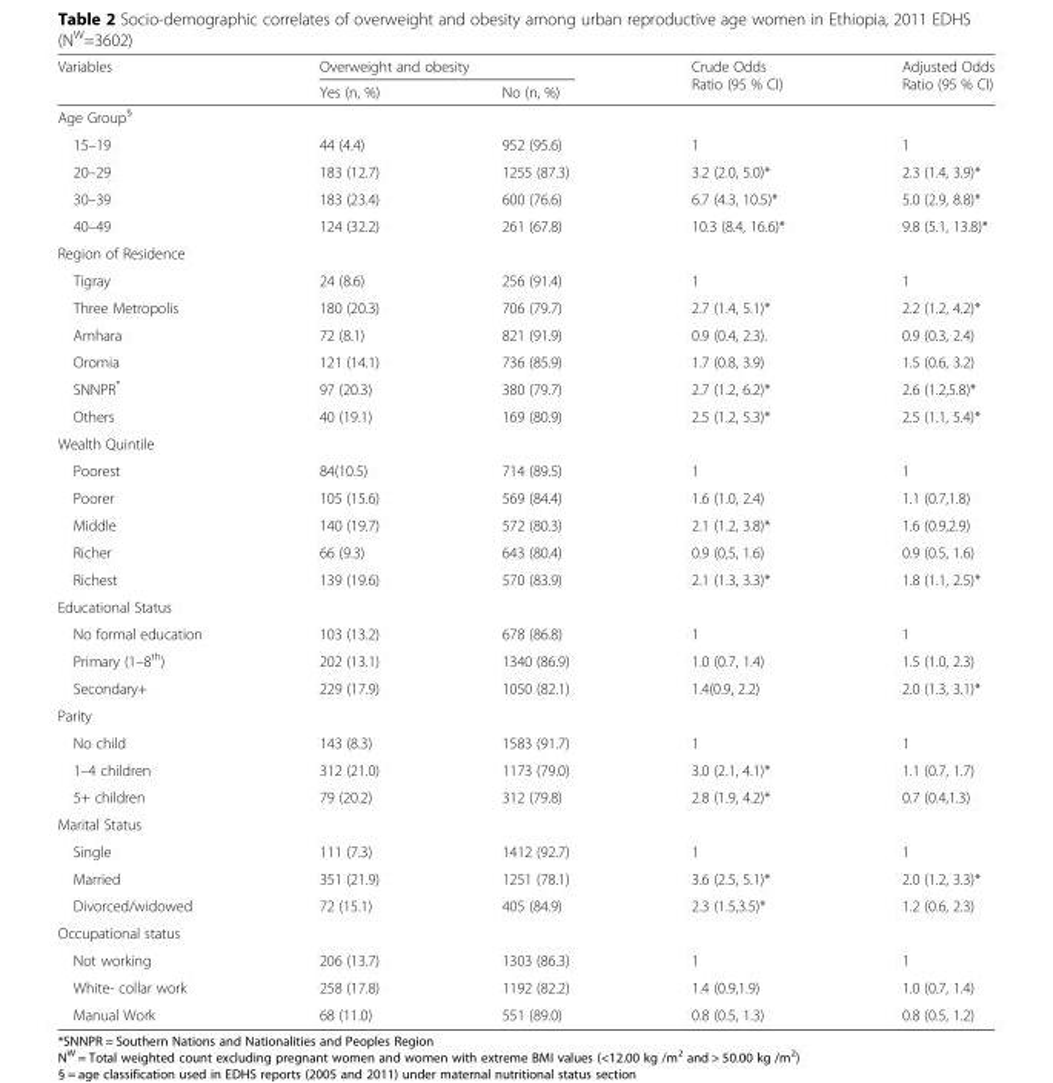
<table><thead><tr><td rowspan="2">Variables</td><td colspan="2">Overweight and obesity</td><td rowspan="2">Crude Odds Ratio (95 % CI)</td><td rowspan="2">Adjusted Odds Ratio (95 % CI)</td></tr><tr><td>Yes (n, %)</td><td>No (n, %)</td></tr></thead><tbody><tr><td colspan="5">Age Group<sup>§</sup></td></tr><tr><td>15–19</td><td>44 (4.4)</td><td>952 (95.6)</td><td>1</td><td>1</td></tr><tr><td>20–29</td><td>183 (12.7)</td><td>1255 (87.3)</td><td>3.2 (2.0, 5.0)*</td><td>2.3 (1.4, 3.9)*</td></tr><tr><td>30–39</td><td>183 (23.4)</td><td>600 (76.6)</td><td>6.7 (4.3, 10.5)*</td><td>5.0 (2.9, 8.8)*</td></tr><tr><td>40–49</td><td>124 (32.2)</td><td>261 (67.8)</td><td>10.3 (8.4, 16.6)*</td><td>9.8 (5.1, 13.8)*</td></tr><tr><td colspan="5">Region of Residence</td></tr><tr><td>Tigray</td><td>24 (8.6)</td><td>256 (91.4)</td><td>1</td><td>1</td></tr><tr><td>Three Metropolis</td><td>180 (20.3)</td><td>706 (79.7)</td><td>2.7 (1.4, 5.1)*</td><td>2.2 (1.2, 4.2)*</td></tr><tr><td>Amhara</td><td>72 (8.1)</td><td>821 (91.9)</td><td>0.9 (0.4, 2.3).</td><td>0.9 (0.3, 2.4)</td></tr><tr><td>Oromia</td><td>121 (14.1)</td><td>736 (85.9)</td><td>1.7 (0.8, 3.9)</td><td>1.5 (0.6, 3.2)</td></tr><tr><td>SNNPR*</td><td>97 (20.3)</td><td>380 (79.7)</td><td>2.7 (1.2, 6.2)*</td><td>2.6 (1.2,5.8)*</td></tr><tr><td>Others</td><td>40 (19.1)</td><td>169 (80.9)</td><td>2.5 (1.2, 5.3)*</td><td>2.5 (1.1, 5.4)*</td></tr><tr><td colspan="5">Wealth Quintile</td></tr><tr><td>Poorest</td><td>84(10.5)</td><td>714 (89.5)</td><td>1</td><td>1</td></tr><tr><td>Poorer</td><td>105 (15.6)</td><td>569 (84.4)</td><td>1.6 (1.0, 2.4)</td><td>1.1 (0.7,1.8)</td></tr><tr><td>Middle</td><td>140 (19.7)</td><td>572 (80.3)</td><td>2.1 (1.2, 3.8)*</td><td>1.6 (0.9,2.9)</td></tr><tr><td>Richer</td><td>66 (9.3)</td><td>643 (80.4)</td><td>0.9 (0,5, 1.6)</td><td>0.9 (0.5, 1.6)</td></tr><tr><td>Richest</td><td>139 (19.6)</td><td>570 (83.9)</td><td>2.1 (1.3, 3.3)*</td><td>1.8 (1.1, 2.5)*</td></tr><tr><td colspan="5">Educational Status</td></tr><tr><td>No formal education</td><td>103 (13.2)</td><td>678 (86.8)</td><td>1</td><td>1</td></tr><tr><td>Primary (1–8<sup>th</sup>)</td><td>202 (13.1)</td><td>1340 (86.9)</td><td>1.0 (0.7, 1.4)</td><td>1.5 (1.0, 2.3)</td></tr><tr><td>Secondary+</td><td>229 (17.9)</td><td>1050 (82.1)</td><td>1.4(0.9, 2.2)</td><td>2.0 (1.3, 3.1)*</td></tr><tr><td colspan="5">Parity</td></tr><tr><td>No child</td><td>143 (8.3)</td><td>1583 (91.7)</td><td>1</td><td>1</td></tr><tr><td>1–4 children</td><td>312 (21.0)</td><td>1173 (79.0)</td><td>3.0 (2.1, 4.1)*</td><td>1.1 (0.7, 1.7)</td></tr><tr><td>5+ children</td><td>79 (20.2)</td><td>312 (79.8)</td><td>2.8 (1.9, 4.2)*</td><td>0.7 (0.4,1.3)</td></tr><tr><td colspan="5">Marital Status</td></tr><tr><td>Single</td><td>111 (7.3)</td><td>1412 (92.7)</td><td>1</td><td>1</td></tr><tr><td>Married</td><td>351 (21.9)</td><td>1251 (78.1)</td><td>3.6 (2.5, 5.1)*</td><td>2.0 (1.2, 3.3)*</td></tr><tr><td>Divorced/widowed</td><td>72 (15.1)</td><td>405 (84.9)</td><td>2.3 (1.5,3.5)*</td><td>1.2 (0.6, 2.3)</td></tr><tr><td colspan="5">Occupational status</td></tr><tr><td>Not working</td><td>206 (13.7)</td><td>1303 (86.3)</td><td>1</td><td>1</td></tr><tr><td>White- collar work</td><td>258 (17.8)</td><td>1192 (82.2)</td><td>1.4 (0.9,1.9)</td><td>1.0 (0.7, 1.4)</td></tr><tr><td>Manual Work</td><td>68 (11.0)</td><td>551 (89.0)</td><td>0.8 (0.5, 1.3)</td><td>0.8 (0.5, 1.2)</td></tr></tbody></table>